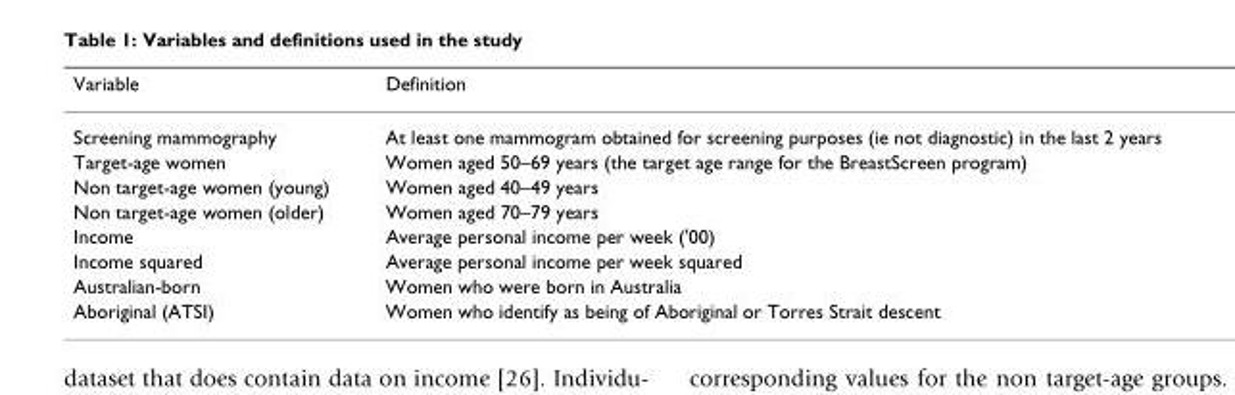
<table><thead><tr><td>Variable</td><td>Definition</td></tr></thead><tbody><tr><td>Screening mammography</td><td>At least one mammogram obtained for screening purposes (ie not diagnostic) in the last 2 years</td></tr><tr><td>Target-age women</td><td>Women aged 50–69 years (the target age range for the BreastScreen program)</td></tr><tr><td>Non target-age women (young)</td><td>Women aged 40–49 years</td></tr><tr><td>Non target-age women (older)</td><td>Women aged 70–79 years</td></tr><tr><td>Income</td><td>Average personal income per week (&#x27;00)</td></tr><tr><td>Income squared</td><td>Average personal income per week squared</td></tr><tr><td>Australian-born</td><td>Women who were born in Australia</td></tr><tr><td>Aboriginal (ATSI)</td><td>Women who identify as being of Aboriginal or Torres Strait descent</td></tr></tbody></table>